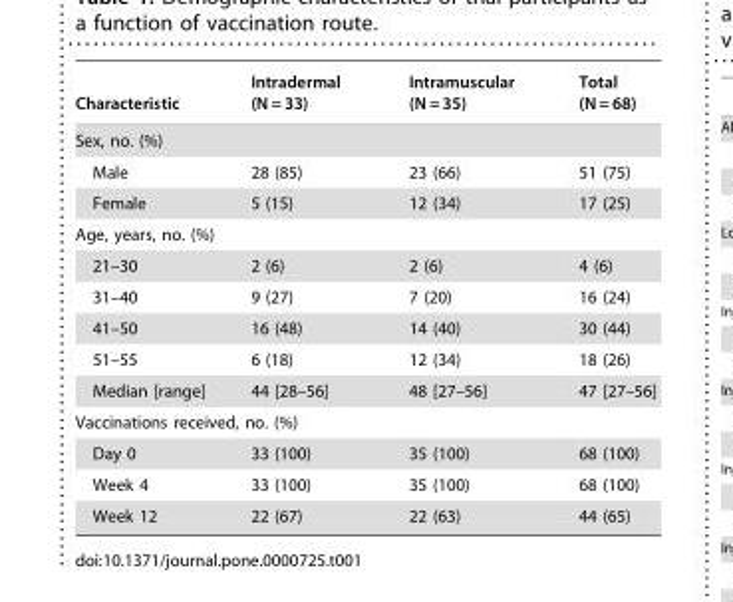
<table><thead><tr><td>Characteristic</td><td>Intradermal (N = 33)</td><td>Intramuscular (N = 35)</td><td>Total (N = 68)</td></tr></thead><tbody><tr><td colspan="4">Sex, no. (%)</td></tr><tr><td>Male</td><td>28 (85)</td><td>23 (66)</td><td>51 (75)</td></tr><tr><td>Female</td><td>5 (15)</td><td>12 (34)</td><td>17 (25)</td></tr><tr><td colspan="4">Age, years, no. (%)</td></tr><tr><td>21–30</td><td>2 (6)</td><td>2 (6)</td><td>4 (6)</td></tr><tr><td>31–40</td><td>9 (27)</td><td>7 (20)</td><td>16 (24)</td></tr><tr><td>41–50</td><td>16 (48)</td><td>14 (40)</td><td>30 (44)</td></tr><tr><td>51–55</td><td>6 (18)</td><td>12 (34)</td><td>18 (26)</td></tr><tr><td>Median [range]</td><td>44 [28–56]</td><td>48 [27–56]</td><td>47 [27–56]</td></tr><tr><td colspan="4">Vaccinations received, no. (%)</td></tr><tr><td>Day 0</td><td>33 (100)</td><td>35 (100)</td><td>68 (100)</td></tr><tr><td>Week 4</td><td>33 (100)</td><td>35 (100)</td><td>68 (100)</td></tr><tr><td>Week 12</td><td>22 (67)</td><td>22 (63)</td><td>44 (65)</td></tr></tbody></table>